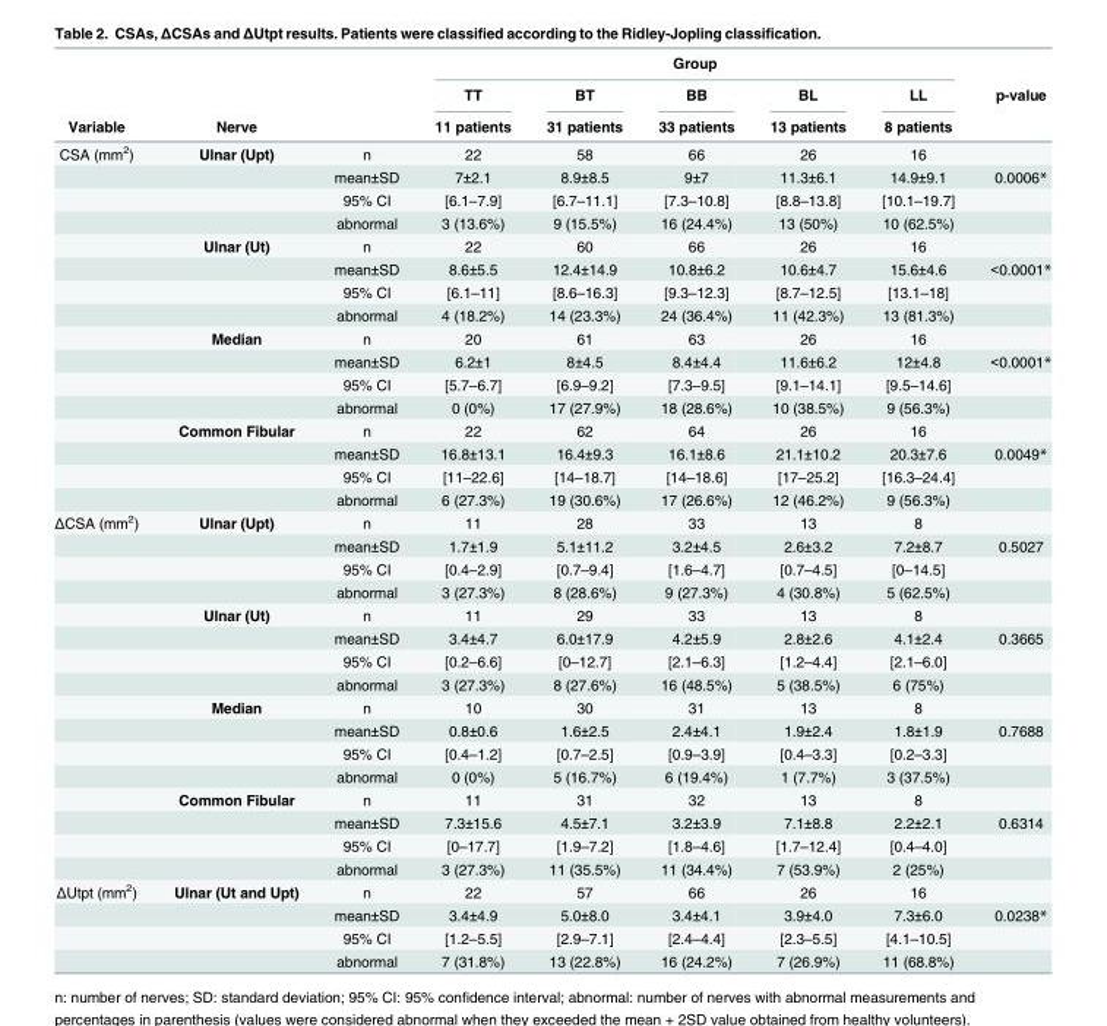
<table><thead><tr><td rowspan="3">Variable</td><td rowspan="3">Nerve</td><td rowspan="3"></td><td colspan="5">Group</td><td rowspan="3">p-value</td></tr><tr><td rowspan="2">TT 11 patients</td><td rowspan="2">BT 31 patients</td><td rowspan="2">BB 33 patients</td><td rowspan="2">BL 13 patients</td><td rowspan="2">LL 8 patients</td></tr><tr></tr></thead><tbody><tr><td rowspan="16">CSA (mm<sup>2</sup>)</td><td>Ulnar (Upt)</td><td>n</td><td>22</td><td>58</td><td>66</td><td>26</td><td>16</td><td></td></tr><tr><td></td><td>mean±SD</td><td>7±2.1</td><td>8.9±8.5</td><td>9±7</td><td>11.3±6.1</td><td>14.9±9.1</td><td>0.0006*</td></tr><tr><td></td><td>95% CI</td><td>[6.1–7.9]</td><td>[6.7–11.1]</td><td>[7.3–10.8]</td><td>[8.8–13.8]</td><td>[10.1–19.7]</td><td></td></tr><tr><td></td><td>abnormal</td><td>3 (13.6%)</td><td>9 (15.5%)</td><td>16 (24.4%)</td><td>13 (50%)</td><td>10 (62.5%)</td><td></td></tr><tr><td>Ulnar (Ut)</td><td>n</td><td>22</td><td>60</td><td>66</td><td>26</td><td>16</td><td></td></tr><tr><td></td><td>mean±SD</td><td>8.6±5.5</td><td>12.4±14.9</td><td>10.8±6.2</td><td>10.6±4.7</td><td>15.6±4.6</td><td>&lt;0.0001*</td></tr><tr><td></td><td>95% CI</td><td>[6.1–11]</td><td>[8.6–16.3]</td><td>[9.3–12.3]</td><td>[8.7–12.5]</td><td>[13.1–18]</td><td></td></tr><tr><td></td><td>abnormal</td><td>4 (18.2%)</td><td>14 (23.3%)</td><td>24 (36.4%)</td><td>11 (42.3%)</td><td>13 (81.3%)</td><td></td></tr><tr><td>Median</td><td>n</td><td>20</td><td>61</td><td>63</td><td>26</td><td>16</td><td></td></tr><tr><td></td><td>mean±SD</td><td>6.2±1</td><td>8±4.5</td><td>8.4±4.4</td><td>11.6±6.2</td><td>12±4.8</td><td>&lt;0.0001*</td></tr><tr><td></td><td>95% CI</td><td>[5.7–6.7]</td><td>[6.9–9.2]</td><td>[7.3–9.5]</td><td>[9.1–14.1]</td><td>[9.5–14.6]</td><td></td></tr><tr><td></td><td>abnormal</td><td>0 (0%)</td><td>17 (27.9%)</td><td>18 (28.6%)</td><td>10 (38.5%)</td><td>9 (56.3%)</td><td></td></tr><tr><td>Common Fibular</td><td>n</td><td>22</td><td>62</td><td>64</td><td>26</td><td>16</td><td></td></tr><tr><td></td><td>mean±SD</td><td>16.8±13.1</td><td>16.4±9.3</td><td>16.1±8.6</td><td>21.1±10.2</td><td>20.3±7.6</td><td>0.0049*</td></tr><tr><td></td><td>95% CI</td><td>[11–22.6]</td><td>[14–18.7]</td><td>[14–18.6]</td><td>[17–25.2]</td><td>[16.3–24.4]</td><td></td></tr><tr><td></td><td>abnormal</td><td>6 (27.3%)</td><td>19 (30.6%)</td><td>17 (26.6%)</td><td>12 (46.2%)</td><td>9 (56.3%)</td><td></td></tr><tr><td rowspan="16">ΔCSA (mm<sup>2</sup>)</td><td>Ulnar (Upt)</td><td>n</td><td>11</td><td>28</td><td>33</td><td>13</td><td>8</td><td></td></tr><tr><td></td><td>mean±SD</td><td>1.7±1.9</td><td>5.1±11.2</td><td>3.2±4.5</td><td>2.6±3.2</td><td>7.2±8.7</td><td>0.5027</td></tr><tr><td></td><td>95% CI</td><td>[0.4–2.9]</td><td>[0.7–9.4]</td><td>[1.6–4.7]</td><td>[0.7–4.5]</td><td>[0–14.5]</td><td></td></tr><tr><td></td><td>abnormal</td><td>3 (27.3%)</td><td>8 (28.6%)</td><td>9 (27.3%)</td><td>4 (30.8%)</td><td>5 (62.5%)</td><td></td></tr><tr><td>Ulnar (Ut)</td><td>n</td><td>11</td><td>29</td><td>33</td><td>13</td><td>8</td><td></td></tr><tr><td></td><td>mean±SD</td><td>3.4±4.7</td><td>6.0±17.9</td><td>4.2±5.9</td><td>2.8±2.6</td><td>4.1±2.4</td><td>0.3665</td></tr><tr><td></td><td>95% CI</td><td>[0.2–6.6]</td><td>[0–12.7]</td><td>[2.1–6.3]</td><td>[1.2–4.4]</td><td>[2.1–6.0]</td><td></td></tr><tr><td></td><td>abnormal</td><td>3 (27.3%)</td><td>8 (27.6%)</td><td>16 (48.5%)</td><td>5 (38.5%)</td><td>6 (75%)</td><td></td></tr><tr><td>Median</td><td>n</td><td>10</td><td>30</td><td>31</td><td>13</td><td>8</td><td></td></tr><tr><td></td><td>mean±SD</td><td>0.8±0.6</td><td>1.6±2.5</td><td>2.4±4.1</td><td>1.9±2.4</td><td>1.8±1.9</td><td>0.7688</td></tr><tr><td></td><td>95% CI</td><td>[0.4–1.2]</td><td>[0.7–2.5]</td><td>[0.9–3.9]</td><td>[0.4–3.3]</td><td>[0.2–3.3]</td><td></td></tr><tr><td></td><td>abnormal</td><td>0 (0%)</td><td>5 (16.7%)</td><td>6 (19.4%)</td><td>1 (7.7%)</td><td>3 (37.5%)</td><td></td></tr><tr><td>Common Fibular</td><td>n</td><td>11</td><td>31</td><td>32</td><td>13</td><td>8</td><td></td></tr><tr><td></td><td>mean±SD</td><td>7.3±15.6</td><td>4.5±7.1</td><td>3.2±3.9</td><td>7.1±8.8</td><td>2.2±2.1</td><td>0.6314</td></tr><tr><td></td><td>95% CI</td><td>[0–17.7]</td><td>[1.9–7.2]</td><td>[1.8–4.6]</td><td>[1.7–12.4]</td><td>[0.4–4.0]</td><td></td></tr><tr><td></td><td>abnormal</td><td>3 (27.3%)</td><td>11 (35.5%)</td><td>11 (34.4%)</td><td>7 (53.9%)</td><td>2 (25%)</td><td></td></tr><tr><td rowspan="4">ΔUtpt (mm<sup>2</sup>)</td><td>Ulnar (Ut and Upt)</td><td>n</td><td>22</td><td>57</td><td>66</td><td>26</td><td>16</td><td></td></tr><tr><td></td><td>mean±SD</td><td>3.4±4.9</td><td>5.0±8.0</td><td>3.4±4.1</td><td>3.9±4.0</td><td>7.3±6.0</td><td>0.0238*</td></tr><tr><td></td><td>95% CI</td><td>[1.2–5.5]</td><td>[2.9–7.1]</td><td>[2.4–4.4]</td><td>[2.3–5.5]</td><td>[4.1–10.5]</td><td></td></tr><tr><td></td><td>abnormal</td><td>7 (31.8%)</td><td>13 (22.8%)</td><td>16 (24.2%)</td><td>7 (26.9%)</td><td>11 (68.8%)</td><td></td></tr></tbody></table>